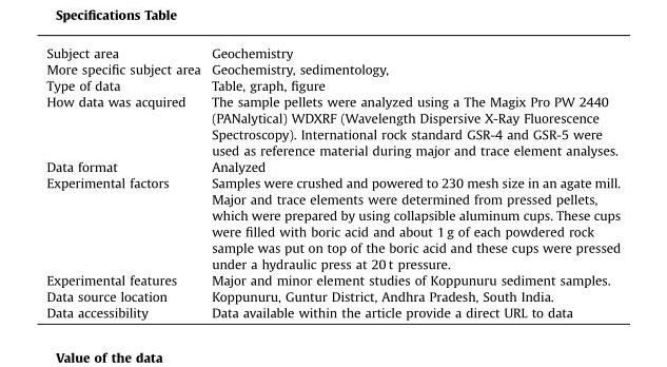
<table><tbody><tr><td>Subject area</td><td>Geochemistry</td></tr><tr><td>More specific subject area</td><td>Geochemistry, sedimentology,</td></tr><tr><td>Type of data</td><td>Table, graph, figure</td></tr><tr><td>How data was acquired</td><td>The sample pellets were analyzed using a The Magix Pro PW 2440 (PANalytical) WDXRF (Wavelength Dispersive X-Ray Fluorescence Spectroscopy). International rock standard GSR-4 and GSR-5 were used as reference material during major and trace element analyses.</td></tr><tr><td>Data format</td><td>Analyzed</td></tr><tr><td>Experimental factors</td><td>Samples were crushed and powered to 230 mesh size in an agate mill. Major and trace elements were determined from pressed pellets, which were prepared by using collapsible aluminum cups. These cups were filled with boric acid and about 1 g of each powdered rock sample was put on top of the boric acid and these cups were pressed under a hydraulic press at 20 t pressure.</td></tr><tr><td>Experimental features</td><td>Major and minor element studies of Koppunuru sediment samples.</td></tr><tr><td>Data source location</td><td>Koppunuru, Guntur District, Andhra Pradesh, South India.</td></tr><tr><td>Data accessibility</td><td>Data available within the article provide a direct URL to data</td></tr></tbody></table>